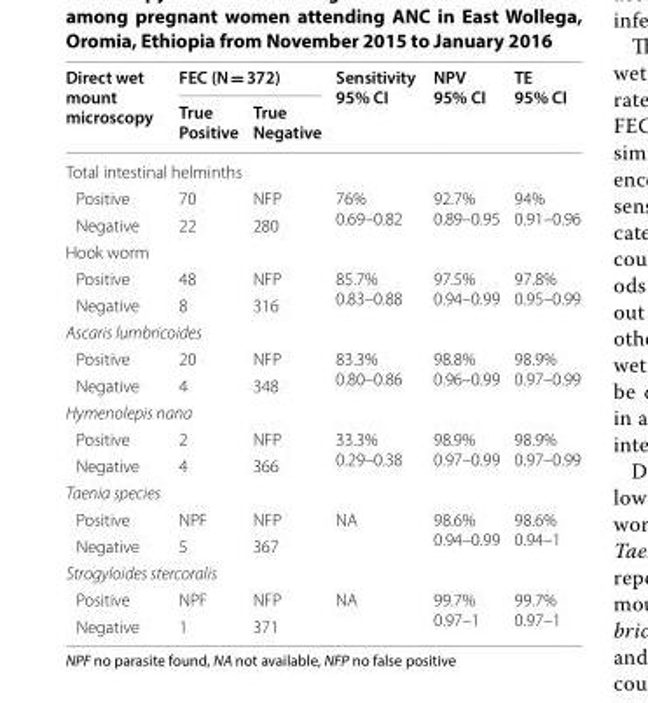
<table><thead><tr><td rowspan="2">Direct wet mount microscopy</td><td colspan="2">FEC (N = 372)</td><td rowspan="2">Sensitivity 95% CI</td><td rowspan="2">NPV 95% CI</td><td rowspan="2">TE 95% CI</td></tr><tr><td>True Positive</td><td>True Negative</td></tr></thead><tbody><tr><td colspan="6">Total intestinal helminths</td></tr><tr><td>Positive</td><td>70</td><td>NFP</td><td rowspan="2">76% 0.69–0.82</td><td rowspan="2">92.7% 0.89–0.95</td><td rowspan="2">94% 0.91–0.96</td></tr><tr><td>Negative</td><td>22</td><td>280</td></tr><tr><td colspan="6">Hook worm</td></tr><tr><td>Positive</td><td>48</td><td>NFP</td><td rowspan="2">85.7% 0.83–0.88</td><td rowspan="2">97.5% 0.94–0.99</td><td rowspan="2">97.8% 0.95–0.99</td></tr><tr><td>Negative</td><td>8</td><td>316</td></tr><tr><td colspan="6">Ascaris lumbricoides</td></tr><tr><td>Positive</td><td>20</td><td>NFP</td><td rowspan="2">83.3% 0.80–0.86</td><td rowspan="2">98.8% 0.96–0.99</td><td rowspan="2">98.9% 0.97–0.99</td></tr><tr><td>Negative</td><td>4</td><td>348</td></tr><tr><td colspan="6">Hymenolepis nana</td></tr><tr><td>Positive</td><td>2</td><td>NFP</td><td rowspan="2">33.3% 0.29–0.38</td><td rowspan="2">98.9% 0.97–0.99</td><td rowspan="2">98.9% 0.97–0.99</td></tr><tr><td>Negative</td><td>4</td><td>366</td></tr><tr><td colspan="6">Taenia species</td></tr><tr><td>Positive</td><td>NPF</td><td>NFP</td><td rowspan="2">NA</td><td rowspan="2">98.6% 0.94–0.99</td><td rowspan="2">98.6% 0.94–1</td></tr><tr><td>Negative</td><td>5</td><td>367</td></tr><tr><td colspan="6">Strogyloides stercoralis</td></tr><tr><td>Positive</td><td>NPF</td><td>NFP</td><td rowspan="2">NA</td><td rowspan="2">99.7% 0.97–1</td><td rowspan="2">99.7% 0.97–1</td></tr><tr><td>Negative</td><td>1</td><td>371</td></tr></tbody></table>